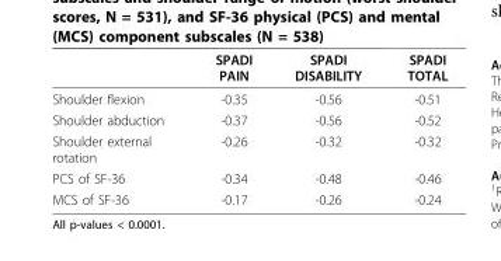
<table><thead><tr><td></td><td>SPADI PAIN</td><td>SPADI DISABILITY</td><td>SPADI TOTAL</td></tr></thead><tbody><tr><td>Shoulder flexion</td><td>-0.35</td><td>-0.56</td><td>-0.51</td></tr><tr><td>Shoulder abduction</td><td>-0.37</td><td>-0.56</td><td>-0.52</td></tr><tr><td>Shoulder external rotation</td><td>-0.26</td><td>-0.32</td><td>-0.32</td></tr><tr><td>PCS of SF-36</td><td>-0.34</td><td>-0.48</td><td>-0.46</td></tr><tr><td>MCS of SF-36</td><td>-0.17</td><td>-0.26</td><td>-0.24</td></tr></tbody></table>